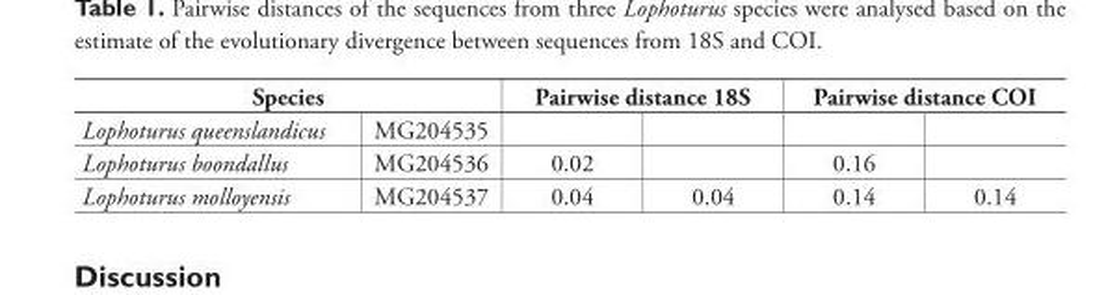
<table><thead><tr><td colspan="2">Species</td><td colspan="2">Pairwise distance 18S</td><td colspan="2">Pairwise distance COI</td></tr><tr><td>Lophoturus queenslandicus</td><td>MG204535</td><td></td><td></td><td></td><td></td></tr></thead><tbody><tr><td>Lophoturus boondallus</td><td>MG204536</td><td>0.02</td><td></td><td>0.16</td><td></td></tr><tr><td>Lophoturus molloyensis</td><td>MG204537</td><td>0.04</td><td>0.04</td><td>0.14</td><td>0.14</td></tr></tbody></table>